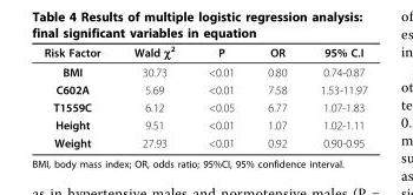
<table><thead><tr><td>Risk Factor</td><td>Wald χ<sup>2</sup></td><td>P</td><td>OR</td><td>95% C.I</td></tr></thead><tbody><tr><td>BMI</td><td>30.73</td><td>&lt;0.01</td><td>0.80</td><td>0.74-0.87</td></tr><tr><td>C602A</td><td>5.69</td><td>&lt;0.01</td><td>7.58</td><td>1.53-11.97</td></tr><tr><td>T1559C</td><td>6.12</td><td>&lt;0.05</td><td>6.77</td><td>1.07-1.83</td></tr><tr><td>Height</td><td>9.51</td><td>&lt;0.01</td><td>1.07</td><td>1.02-1.11</td></tr><tr><td>Weight</td><td>27.93</td><td>&lt;0.01</td><td>0.92</td><td>0.90-0.95</td></tr></tbody></table>